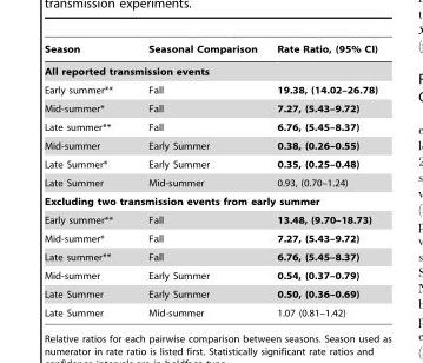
<table><thead><tr><td>Season</td><td>Seasonal Comparison</td><td>Rate Ratio, (95% CI)</td></tr></thead><tbody><tr><td colspan="3">All reported transmission events</td></tr><tr><td>Early summer**</td><td>Fall</td><td>19.38, (14.02–26.78)</td></tr><tr><td>Mid-summer*</td><td>Fall</td><td>7.27, (5.43–9.72)</td></tr><tr><td>Late summer**</td><td>Fall</td><td>6.76, (5.45–8.37)</td></tr><tr><td>Mid-summer</td><td>Early Summer</td><td>0.38, (0.26–0.55)</td></tr><tr><td>Late Summer*</td><td>Early Summer</td><td>0.35, (0.25–0.48)</td></tr><tr><td>Late Summer</td><td>Mid-summer</td><td>0.93, (0.70–1.24)</td></tr><tr><td colspan="3">Excluding two transmission events from early summer</td></tr><tr><td>Early summer**</td><td>Fall</td><td>13.48, (9.70–18.73)</td></tr><tr><td>Mid-summer*</td><td>Fall</td><td>7.27, (5.43–9.72)</td></tr><tr><td>Late summer**</td><td>Fall</td><td>6.76, (5.45–8.37)</td></tr><tr><td>Mid-summer</td><td>Early Summer</td><td>0.54, (0.37–0.79)</td></tr><tr><td>Late Summer</td><td>Early Summer</td><td>0.50, (0.36–0.69)</td></tr><tr><td>Late Summer</td><td>Mid-summer</td><td>1.07 (0.81–1.42)</td></tr></tbody></table>